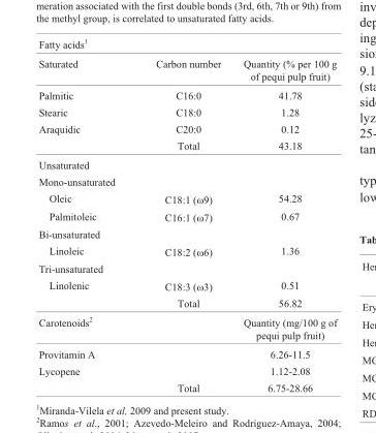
<table><thead><tr><td rowspan="2">Fatty acids<sup>1</sup> Saturated</td><td rowspan="2">Carbon number</td><td rowspan="2">Quantity (% per 100 g of pequi pulp fruit)</td></tr><tr></tr></thead><tbody><tr><td>Palmitic</td><td>C16:0</td><td>41.78</td></tr><tr><td>Stearic</td><td>C18:0</td><td>1.28</td></tr><tr><td rowspan="2">Araquidic</td><td>C20:0</td><td>0.12</td></tr><tr><td>Total</td><td>43.18</td></tr><tr><td colspan="3">Unsaturated</td></tr><tr><td colspan="3">Mono-unsaturated</td></tr><tr><td>Oleic</td><td>C18:1 (ω9)</td><td>54.28</td></tr><tr><td>Palmitoleic</td><td>C16:1 (ω7)</td><td>0.67</td></tr><tr><td colspan="3">Bi-unsaturated</td></tr><tr><td>Linoleic</td><td>C18:2 (ω6)</td><td>1.36</td></tr><tr><td colspan="3">Tri-unsaturated</td></tr><tr><td rowspan="2">Linolenic</td><td>C18:3 (ω3)</td><td>0.51</td></tr><tr><td>Total</td><td>56.82</td></tr><tr><td>Carotenoids<sup>2</sup></td><td></td><td>Quantity (mg/100 g of pequi pulp fruit)</td></tr><tr><td>Provitamin A</td><td></td><td>6.26-11.5</td></tr><tr><td rowspan="2">Lycopene</td><td></td><td>1.12-2.08</td></tr><tr><td>Total</td><td>6.75-28.66</td></tr></tbody></table>